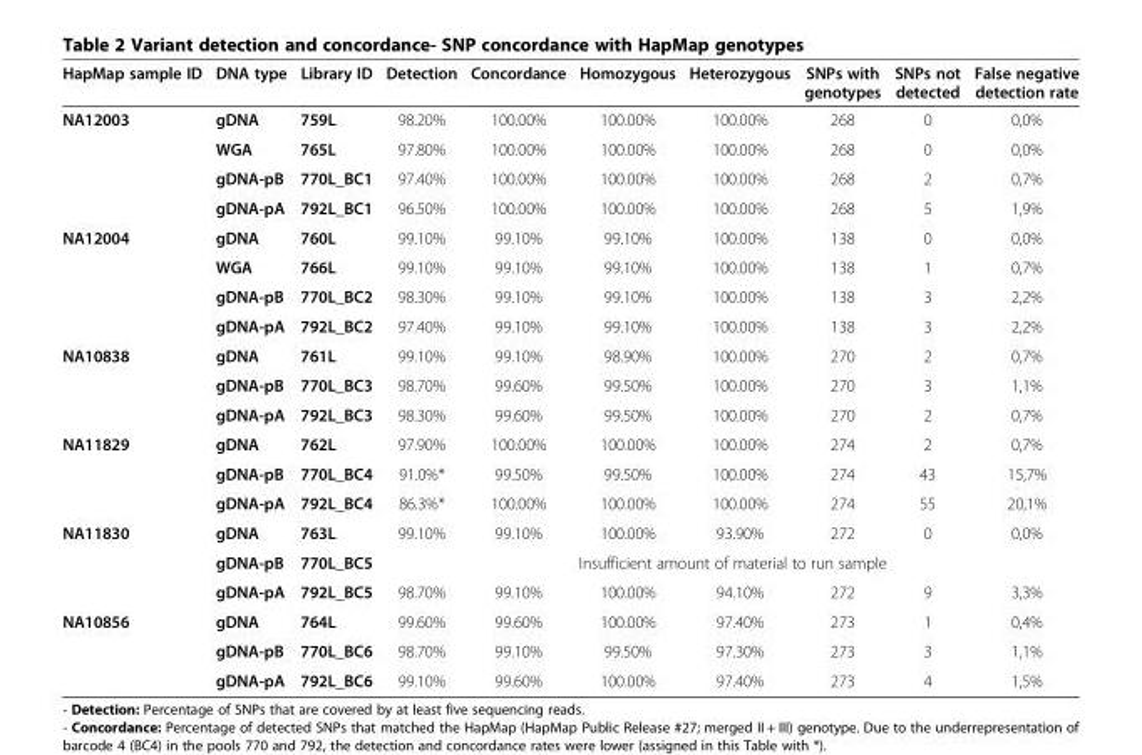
<table><thead><tr><td>HapMap sample ID</td><td>DNA type</td><td>Library ID</td><td>Detection</td><td>Concordance</td><td>Homozygous</td><td>Heterozygous</td><td>SNPs with genotypes</td><td>SNPs not detected</td><td>False negative detection rate</td></tr></thead><tbody><tr><td rowspan="4">NA12003</td><td>gDNA</td><td>759L</td><td>98.20%</td><td>100.00%</td><td>100.00%</td><td>100.00%</td><td>268</td><td>0</td><td>0,0%</td></tr><tr><td>WGA</td><td>765L</td><td>97.80%</td><td>100.00%</td><td>100.00%</td><td>100.00%</td><td>268</td><td>0</td><td>0,0%</td></tr><tr><td>gDNA-pB</td><td>770L_BC1</td><td>97.40%</td><td>100.00%</td><td>100.00%</td><td>100.00%</td><td>268</td><td>2</td><td>0,7%</td></tr><tr><td>gDNA-pA</td><td>792L_BC1</td><td>96.50%</td><td>100.00%</td><td>100.00%</td><td>100.00%</td><td>268</td><td>5</td><td>1,9%</td></tr><tr><td rowspan="4">NA12004</td><td>gDNA</td><td>760L</td><td>99.10%</td><td>99.10%</td><td>99.10%</td><td>100.00%</td><td>138</td><td>0</td><td>0,0%</td></tr><tr><td>WGA</td><td>766L</td><td>99.10%</td><td>99.10%</td><td>99.10%</td><td>100.00%</td><td>138</td><td>1</td><td>0,7%</td></tr><tr><td>gDNA-pB</td><td>770L_BC2</td><td>98.30%</td><td>99.10%</td><td>99.10%</td><td>100.00%</td><td>138</td><td>3</td><td>2,2%</td></tr><tr><td>gDNA-pA</td><td>792L_BC2</td><td>97.40%</td><td>99.10%</td><td>99.10%</td><td>100.00%</td><td>138</td><td>3</td><td>2,2%</td></tr><tr><td rowspan="3">NA10838</td><td>gDNA</td><td>761L</td><td>99.10%</td><td>99.10%</td><td>98.90%</td><td>100.00%</td><td>270</td><td>2</td><td>0,7%</td></tr><tr><td>gDNA-pB</td><td>770L_BC3</td><td>98.70%</td><td>99.60%</td><td>99.50%</td><td>100.00%</td><td>270</td><td>3</td><td>1,1%</td></tr><tr><td>gDNA-pA</td><td>792L_BC3</td><td>98.30%</td><td>99.60%</td><td>99.50%</td><td>100.00%</td><td>270</td><td>2</td><td>0,7%</td></tr><tr><td rowspan="3">NA11829</td><td>gDNA</td><td>762L</td><td>97.90%</td><td>100.00%</td><td>100.00%</td><td>100.00%</td><td>274</td><td>2</td><td>0,7%</td></tr><tr><td>gDNA-pB</td><td>770L_BC4</td><td>91.0%*</td><td>99.50%</td><td>99.50%</td><td>100.00%</td><td>274</td><td>43</td><td>15,7%</td></tr><tr><td>gDNA-pA</td><td>792L_BC4</td><td>86.3%*</td><td>100.00%</td><td>100.00%</td><td>100.00%</td><td>274</td><td>55</td><td>20,1%</td></tr><tr><td rowspan="3">NA11830</td><td>gDNA</td><td>763L</td><td>99.10%</td><td>99.10%</td><td>100.00%</td><td>93.90%</td><td>272</td><td>0</td><td>0,0%</td></tr><tr><td>gDNA-pB</td><td>770L_BC5</td><td colspan="7">Insufficient amount of material to run sample</td></tr><tr><td>gDNA-pA</td><td>792L_BC5</td><td>98.70%</td><td>99.10%</td><td>100.00%</td><td>94.10%</td><td>272</td><td>9</td><td>3,3%</td></tr><tr><td rowspan="3">NA10856</td><td>gDNA</td><td>764L</td><td>99.60%</td><td>99.60%</td><td>100.00%</td><td>97.40%</td><td>273</td><td>1</td><td>0,4%</td></tr><tr><td>gDNA-pB</td><td>770L_BC6</td><td>98.70%</td><td>99.10%</td><td>99.50%</td><td>97.30%</td><td>273</td><td>3</td><td>1,1%</td></tr><tr><td>gDNA-pA</td><td>792L_BC6</td><td>99.10%</td><td>99.60%</td><td>100.00%</td><td>97.40%</td><td>273</td><td>4</td><td>1,5%</td></tr></tbody></table>